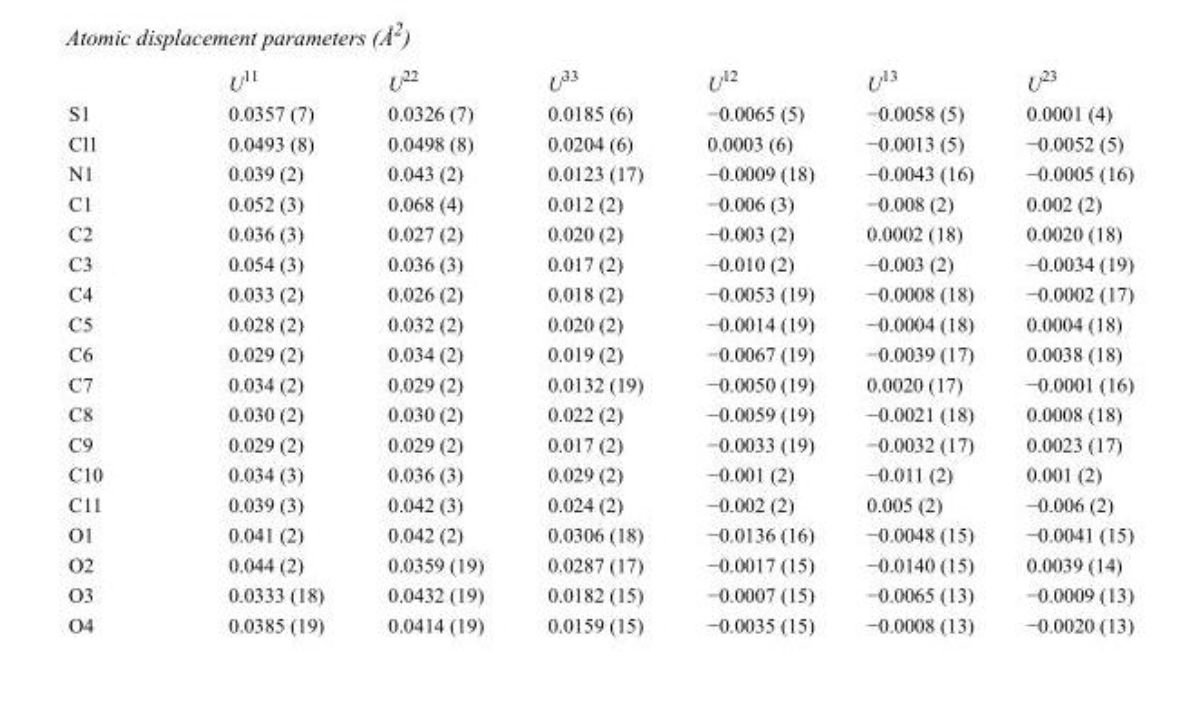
<table><thead><tr><td></td><td>U<sup>11</sup></td><td>U<sup>22</sup></td><td>U<sup>33</sup></td><td>U<sup>12</sup></td><td>U<sup>13</sup></td><td>U<sup>23</sup></td></tr></thead><tbody><tr><td>S1</td><td>0.0357 (7)</td><td>0.0326 (7)</td><td>0.0185 (6)</td><td>−0.0065 (5)</td><td>−0.0058 (5)</td><td>0.0001 (4)</td></tr><tr><td>Cl1</td><td>0.0493 (8)</td><td>0.0498 (8)</td><td>0.0204 (6)</td><td>0.0003 (6)</td><td>−0.0013 (5)</td><td>−0.0052 (5)</td></tr><tr><td>N1</td><td>0.039 (2)</td><td>0.043 (2)</td><td>0.0123 (17)</td><td>−0.0009 (18)</td><td>−0.0043 (16)</td><td>−0.0005 (16)</td></tr><tr><td>C1</td><td>0.052 (3)</td><td>0.068 (4)</td><td>0.012 (2)</td><td>−0.006 (3)</td><td>−0.008 (2)</td><td>0.002 (2)</td></tr><tr><td>C2</td><td>0.036 (3)</td><td>0.027 (2)</td><td>0.020 (2)</td><td>−0.003 (2)</td><td>0.0002 (18)</td><td>0.0020 (18)</td></tr><tr><td>C3</td><td>0.054 (3)</td><td>0.036 (3)</td><td>0.017 (2)</td><td>−0.010 (2)</td><td>−0.003 (2)</td><td>−0.0034 (19)</td></tr><tr><td>C4</td><td>0.033 (2)</td><td>0.026 (2)</td><td>0.018 (2)</td><td>−0.0053 (19)</td><td>−0.0008 (18)</td><td>−0.0002 (17)</td></tr><tr><td>C5</td><td>0.028 (2)</td><td>0.032 (2)</td><td>0.020 (2)</td><td>−0.0014 (19)</td><td>−0.0004 (18)</td><td>0.0004 (18)</td></tr><tr><td>C6</td><td>0.029 (2)</td><td>0.034 (2)</td><td>0.019 (2)</td><td>−0.0067 (19)</td><td>−0.0039 (17)</td><td>0.0038 (18)</td></tr><tr><td>C7</td><td>0.034 (2)</td><td>0.029 (2)</td><td>0.0132 (19)</td><td>−0.0050 (19)</td><td>0.0020 (17)</td><td>−0.0001 (16)</td></tr><tr><td>C8</td><td>0.030 (2)</td><td>0.030 (2)</td><td>0.022 (2)</td><td>−0.0059 (19)</td><td>−0.0021 (18)</td><td>0.0008 (18)</td></tr><tr><td>C9</td><td>0.029 (2)</td><td>0.029 (2)</td><td>0.017 (2)</td><td>−0.0033 (19)</td><td>−0.0032 (17)</td><td>0.0023 (17)</td></tr><tr><td>C10</td><td>0.034 (3)</td><td>0.036 (3)</td><td>0.029 (2)</td><td>−0.001 (2)</td><td>−0.011 (2)</td><td>0.001 (2)</td></tr><tr><td>C11</td><td>0.039 (3)</td><td>0.042 (3)</td><td>0.024 (2)</td><td>−0.002 (2)</td><td>0.005 (2)</td><td>−0.006 (2)</td></tr><tr><td>O1</td><td>0.041 (2)</td><td>0.042 (2)</td><td>0.0306 (18)</td><td>−0.0136 (16)</td><td>−0.0048 (15)</td><td>−0.0041 (15)</td></tr><tr><td>O2</td><td>0.044 (2)</td><td>0.0359 (19)</td><td>0.0287 (17)</td><td>−0.0017 (15)</td><td>−0.0140 (15)</td><td>0.0039 (14)</td></tr><tr><td>O3</td><td>0.0333 (18)</td><td>0.0432 (19)</td><td>0.0182 (15)</td><td>−0.0007 (15)</td><td>−0.0065 (13)</td><td>−0.0009 (13)</td></tr><tr><td>O4</td><td>0.0385 (19)</td><td>0.0414 (19)</td><td>0.0159 (15)</td><td>−0.0035 (15)</td><td>−0.0008 (13)</td><td>−0.0020 (13)</td></tr></tbody></table>